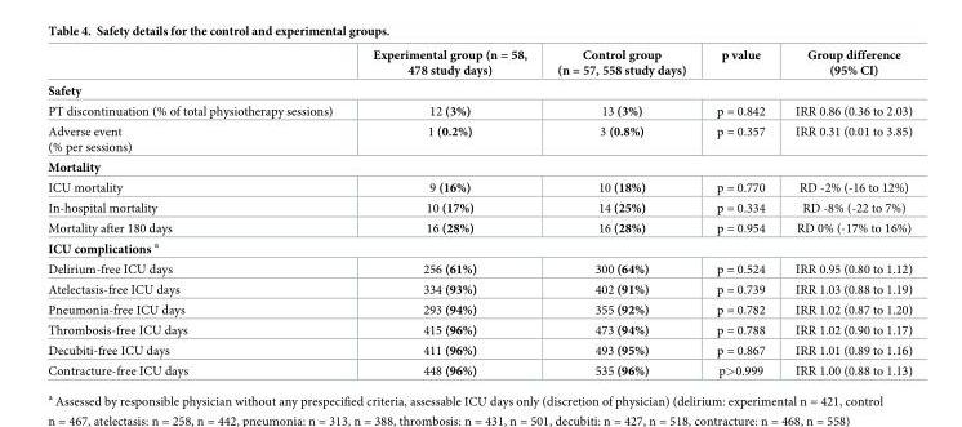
<table><thead><tr><td></td><td>Experimental group (n = 58, 478 study days)</td><td>Control group (n = 57, 558 study days)</td><td>p value</td><td>Group difference (95% CI)</td></tr></thead><tbody><tr><td colspan="5">Safety</td></tr><tr><td>PT discontinuation (% of total physiotherapy sessions)</td><td>12 (3%)</td><td>13 (3%)</td><td>p = 0.842</td><td>IRR 0.86 (0.36 to 2.03)</td></tr><tr><td>Adverse event (% per sessions)</td><td>1 (0.2%)</td><td>3 (0.8%)</td><td>p = 0.357</td><td>IRR 0.31 (0.01 to 3.85)</td></tr><tr><td colspan="5">Mortality</td></tr><tr><td>ICU mortality</td><td>9 (16%)</td><td>10 (18%)</td><td>p = 0.770</td><td>RD -2% (-16 to 12%)</td></tr><tr><td>In-hospital mortality</td><td>10 (17%)</td><td>14 (25%)</td><td>p = 0.334</td><td>RD -8% (-22 to 7%)</td></tr><tr><td>Mortality after 180 days</td><td>16 (28%)</td><td>16 (28%)</td><td>p = 0.954</td><td>RD 0% (-17% to 16%)</td></tr><tr><td colspan="5">ICU complications <sup>a</sup></td></tr><tr><td>Delirium-free ICU days</td><td>256 (61%)</td><td>300 (64%)</td><td>p = 0.524</td><td>IRR 0.95 (0.80 to 1.12)</td></tr><tr><td>Atelectasis-free ICU days</td><td>334 (93%)</td><td>402 (91%)</td><td>p = 0.739</td><td>IRR 1.03 (0.88 to 1.19)</td></tr><tr><td>Pneumonia-free ICU days</td><td>293 (94%)</td><td>355 (92%)</td><td>p = 0.782</td><td>IRR 1.02 (0.87 to 1.20)</td></tr><tr><td>Thrombosis-free ICU days</td><td>415 (96%)</td><td>473 (94%)</td><td>p = 0.788</td><td>IRR 1.02 (0.90 to 1.17)</td></tr><tr><td>Decubiti-free ICU days</td><td>411 (96%)</td><td>493 (95%)</td><td>p = 0.867</td><td>IRR 1.01 (0.89 to 1.16)</td></tr><tr><td>Contracture-free ICU days</td><td>448 (96%)</td><td>535 (96%)</td><td>p&gt;0.999</td><td>IRR 1.00 (0.88 to 1.13)</td></tr></tbody></table>